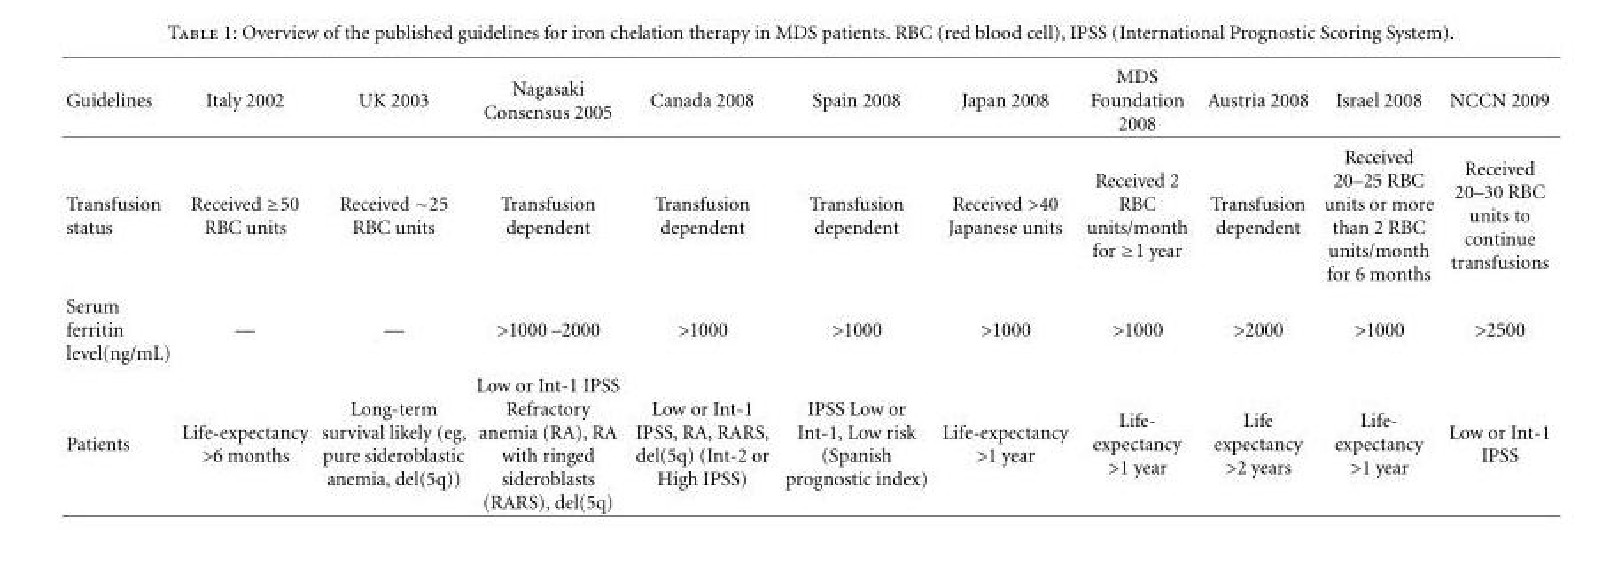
<table><thead><tr><td>Guidelines</td><td>Italy 2002</td><td>UK 2003</td><td>Nagasaki Consensus 2005</td><td>Canada 2008</td><td>Spain 2008</td><td>Japan 2008</td><td>MDS Foundation 2008</td><td>Austria 2008</td><td>Israel 2008</td><td>NCCN 2009</td></tr></thead><tbody><tr><td>Transfusion status</td><td>Received ≥50 RBC units</td><td>Received ∼25 RBC units</td><td>Transfusion dependent</td><td>Transfusion dependent</td><td>Transfusion dependent</td><td>Received &gt;40 Japanese units</td><td>Received 2 RBC units/month for ≥1 year</td><td>Transfusion dependent</td><td>Received 20–25 RBC units or more than 2 RBC units/month for 6 months</td><td>Received 20–30 RBC units to continue transfusions</td></tr><tr><td>Serum ferritin level(ng/mL)</td><td>—</td><td>—</td><td>&gt;1000 –2000</td><td>&gt;1000</td><td>&gt;1000</td><td>&gt;1000</td><td>&gt;1000</td><td>&gt;2000</td><td>&gt;1000</td><td>&gt;2500</td></tr><tr><td>Patients</td><td>Life-expectancy &gt;6 months</td><td>Long-term survival likely (eg, pure sideroblastic anemia, del(5q))</td><td>Low or Int-1 IPSS Refractory anemia (RA), RA with ringed sideroblasts (RARS), del(5q)</td><td>Low or Int-1 IPSS, RA, RARS, del(5q) (Int-2 or High IPSS)</td><td>IPSS Low or Int-1, Low risk (Spanish prognostic index)</td><td>Life-expectancy &gt;1 year</td><td>Life- expectancy &gt;1 year</td><td>Life expectancy &gt;2 years</td><td>Life- expectancy &gt;1 year</td><td>Low or Int-1 IPSS</td></tr></tbody></table>